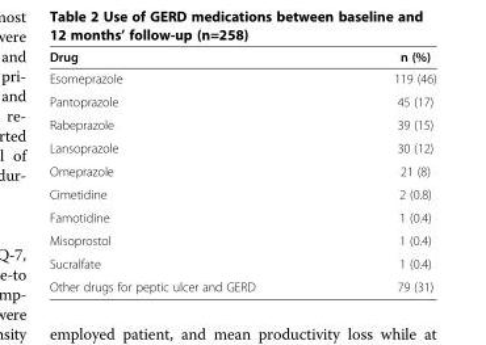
<table><thead><tr><td>Drug</td><td>n (%)</td></tr></thead><tbody><tr><td>Esomeprazole</td><td>119 (46)</td></tr><tr><td>Pantoprazole</td><td>45 (17)</td></tr><tr><td>Rabeprazole</td><td>39 (15)</td></tr><tr><td>Lansoprazole</td><td>30 (12)</td></tr><tr><td>Omeprazole</td><td>21 (8)</td></tr><tr><td>Cimetidine</td><td>2 (0.8)</td></tr><tr><td>Famotidine</td><td>1 (0.4)</td></tr><tr><td>Misoprostol</td><td>1 (0.4)</td></tr><tr><td>Sucralfate</td><td>1 (0.4)</td></tr><tr><td>Other drugs for peptic ulcer and GERD</td><td>79 (31)</td></tr></tbody></table>